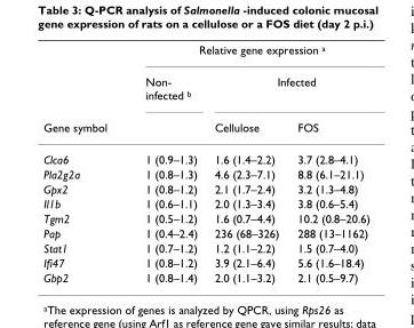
<table><thead><tr><td rowspan="3">Gene symbol</td><td colspan="3">Relative gene expression <sup>a</sup></td></tr><tr><td rowspan="2">Non- infected <sup>b</sup></td><td colspan="2">Infected</td></tr><tr><td>Cellulose</td><td>FOS</td></tr></thead><tbody><tr><td>Clca6</td><td>1 (0.9–1.3)</td><td>1.6 (1.4–2.2)</td><td>3.7 (2.8–4.1)</td></tr><tr><td>Pla2g2a</td><td>1 (0.8–1.3)</td><td>4.6 (2.3–7.1)</td><td>8.8 (6.1–21.1)</td></tr><tr><td>Gpx2</td><td>1 (0.8–1.2)</td><td>2.1 (1.7–2.4)</td><td>3.2 (1.3–4.8)</td></tr><tr><td>Il1b</td><td>1 (0.6–1.1)</td><td>2.0 (1.3–3.4)</td><td>3.8 (0.6–5.4)</td></tr><tr><td>Tgm2</td><td>1 (0.5–1.2)</td><td>1.6 (0.7–4.4)</td><td>10.2 (0.8–20.6)</td></tr><tr><td>Pap</td><td>1 (0.4–2.4)</td><td>236 (68–326)</td><td>288 (13–1162)</td></tr><tr><td>Stat1</td><td>1 (0.7–1.2)</td><td>1.2 (1.1–2.2)</td><td>1.5 (0.7–4.0)</td></tr><tr><td>Ifi47</td><td>1 (0.8–1.2)</td><td>3.9 (2.1–6.4)</td><td>5.6 (1.6–18.4)</td></tr><tr><td>Gbp2</td><td>1 (0.8–1.4)</td><td>2.0 (1.1–3.2)</td><td>2.1 (0.5–9.7)</td></tr></tbody></table>